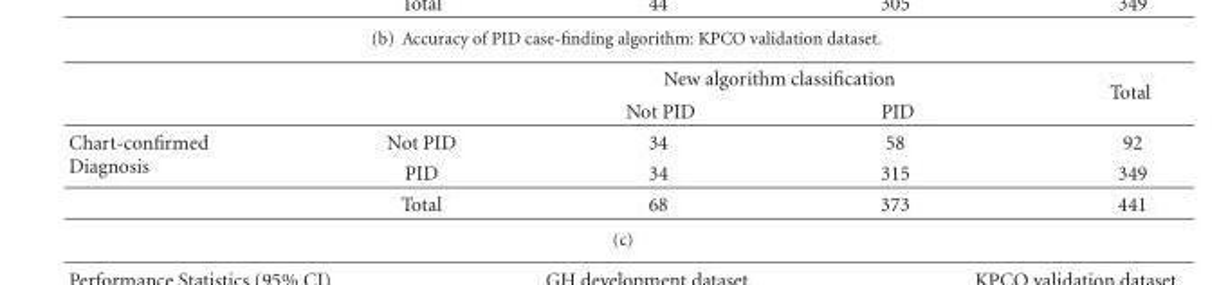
<table><thead><tr><td></td><td></td><td colspan="2">New algorithm classification</td><td rowspan="2">Total</td></tr><tr><td colspan="2"></td><td>Not PID</td><td>PID</td></tr></thead><tbody><tr><td rowspan="3">Chart-confirmed Diagnosis</td><td>Not PID</td><td>34</td><td>58</td><td>92</td></tr><tr><td>PID</td><td>34</td><td>315</td><td>349</td></tr><tr><td>Total</td><td>68</td><td>373</td><td>441</td></tr></tbody></table>